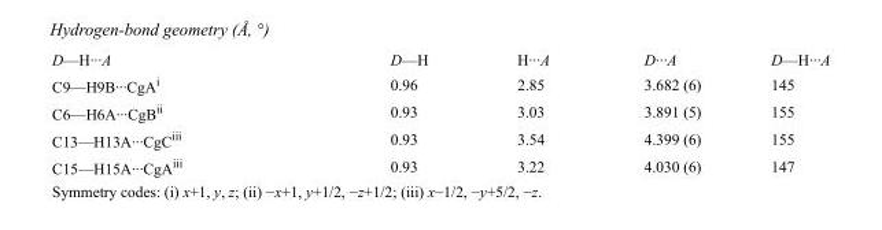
<table><tbody><tr><td>D—H···A</td><td>D—H</td><td>H···A</td><td>D···A</td><td>D—H···A</td></tr><tr><td>C9—H9B···CgA<sup>i</sup></td><td>0.96</td><td>2.85</td><td>3.682 (6)</td><td>145</td></tr><tr><td>C6—H6A···CgB<sup>ii</sup></td><td>0.93</td><td>3.03</td><td>3.891 (5)</td><td>155</td></tr><tr><td>C13—H13A···CgC<sup>iii</sup></td><td>0.93</td><td>3.54</td><td>4.399 (6)</td><td>155</td></tr><tr><td>C15—H15A···CgA<sup>iii</sup></td><td>0.93</td><td>3.22</td><td>4.030 (6)</td><td>147</td></tr></tbody></table>